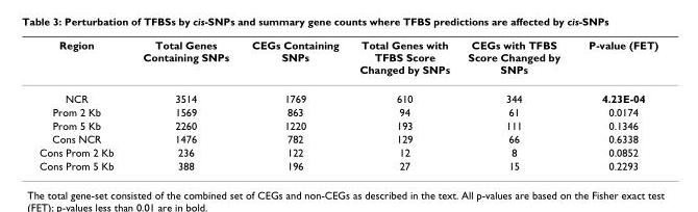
<table><thead><tr><td>Region</td><td>Total Genes Containing SNPs</td><td>CEGs Containing SNPs</td><td>Total Genes with TFBS Score Changed by SNPs</td><td>CEGs with TFBS Score Changed by SNPs</td><td>P-value (FET)</td></tr></thead><tbody><tr><td>NCR</td><td>3514</td><td>1769</td><td>610</td><td>344</td><td>4.23E-04</td></tr><tr><td>Prom 2 Kb</td><td>1569</td><td>863</td><td>94</td><td>61</td><td>0.0174</td></tr><tr><td>Prom 5 Kb</td><td>2260</td><td>1220</td><td>193</td><td>111</td><td>0.1346</td></tr><tr><td>Cons NCR</td><td>1476</td><td>782</td><td>129</td><td>66</td><td>0.6338</td></tr><tr><td>Cons Prom 2 Kb</td><td>236</td><td>122</td><td>12</td><td>8</td><td>0.0852</td></tr><tr><td>Cons Prom 5 Kb</td><td>388</td><td>196</td><td>27</td><td>15</td><td>0.2293</td></tr></tbody></table>